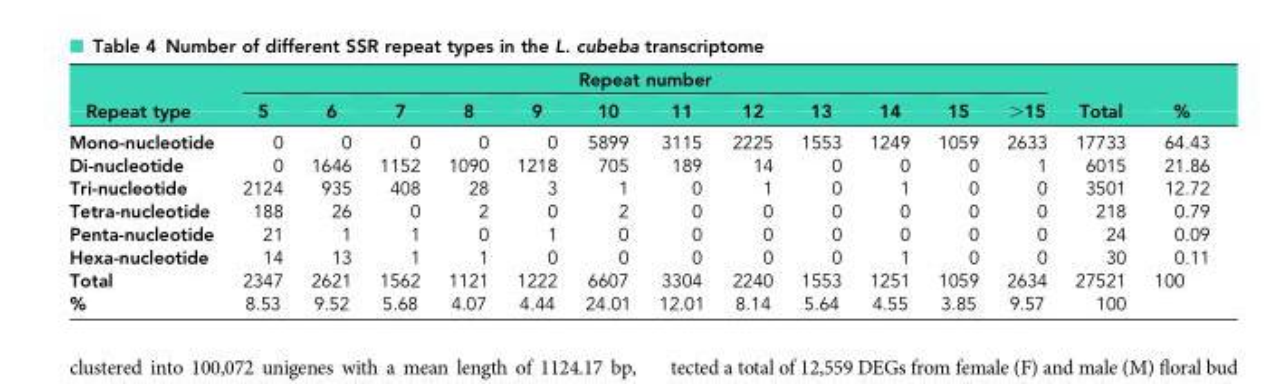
<table><thead><tr><td rowspan="2">Repeat type</td><td colspan="12">Repeat number</td><td rowspan="2">Total</td><td rowspan="2">%</td></tr><tr><td>5</td><td>6</td><td>7</td><td>8</td><td>9</td><td>10</td><td>11</td><td>12</td><td>13</td><td>14</td><td>15</td><td>&gt;15</td></tr></thead><tbody><tr><td>Mono-nucleotide</td><td>0</td><td>0</td><td>0</td><td>0</td><td>0</td><td>5899</td><td>3115</td><td>2225</td><td>1553</td><td>1249</td><td>1059</td><td>2633</td><td>17733</td><td>64.43</td></tr><tr><td>Di-nucleotide</td><td>0</td><td>1646</td><td>1152</td><td>1090</td><td>1218</td><td>705</td><td>189</td><td>14</td><td>0</td><td>0</td><td>0</td><td>1</td><td>6015</td><td>21.86</td></tr><tr><td>Tri-nucleotide</td><td>2124</td><td>935</td><td>408</td><td>28</td><td>3</td><td>1</td><td>0</td><td>1</td><td>0</td><td>1</td><td>0</td><td>0</td><td>3501</td><td>12.72</td></tr><tr><td>Tetra-nucleotide</td><td>188</td><td>26</td><td>0</td><td>2</td><td>0</td><td>2</td><td>0</td><td>0</td><td>0</td><td>0</td><td>0</td><td>0</td><td>218</td><td>0.79</td></tr><tr><td>Penta-nucleotide</td><td>21</td><td>1</td><td>1</td><td>0</td><td>1</td><td>0</td><td>0</td><td>0</td><td>0</td><td>0</td><td>0</td><td>0</td><td>24</td><td>0.09</td></tr><tr><td>Hexa-nucleotide</td><td>14</td><td>13</td><td>1</td><td>1</td><td>0</td><td>0</td><td>0</td><td>0</td><td>0</td><td>1</td><td>0</td><td>0</td><td>30</td><td>0.11</td></tr><tr><td>Total</td><td>2347</td><td>2621</td><td>1562</td><td>1121</td><td>1222</td><td>6607</td><td>3304</td><td>2240</td><td>1553</td><td>1251</td><td>1059</td><td>2634</td><td>27521</td><td>100</td></tr><tr><td>%</td><td>8.53</td><td>9.52</td><td>5.68</td><td>4.07</td><td>4.44</td><td>24.01</td><td>12.01</td><td>8.14</td><td>5.64</td><td>4.55</td><td>3.85</td><td>9.57</td><td>100</td><td></td></tr></tbody></table>